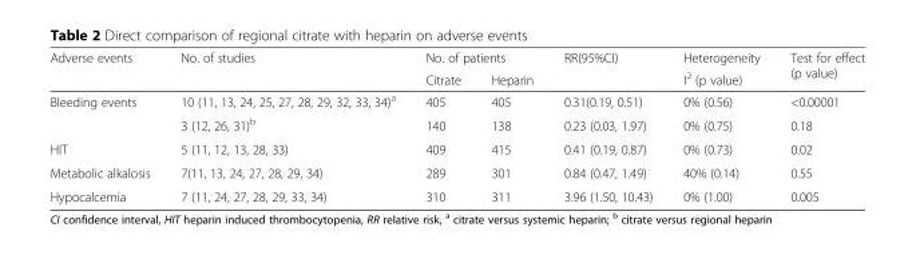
<table><thead><tr><td rowspan="2">Adverse events</td><td rowspan="2">No. of studies</td><td colspan="2">No. of patients</td><td rowspan="2">RR(95%CI)</td><td rowspan="2">Heterogeneity I<sup>2</sup> (p value)</td><td rowspan="2">Test for effect (p value)</td></tr><tr><td>Citrate</td><td>Heparin</td></tr></thead><tbody><tr><td rowspan="2">Bleeding events</td><td>10 (11, 13, 24, 25, 27, 28, 29, 32, 33, 34)<sup>a</sup></td><td>405</td><td>405</td><td>0.31(0.19, 0.51)</td><td>0% (0.56)</td><td>&lt;0.00001</td></tr><tr><td>3 (12, 26, 31)<sup>b</sup></td><td>140</td><td>138</td><td>0.23 (0.03, 1.97)</td><td>0% (0.75)</td><td>0.18</td></tr><tr><td>HIT</td><td>5 (11, 12, 13, 28, 33)</td><td>409</td><td>415</td><td>0.41 (0.19, 0.87)</td><td>0% (0.73)</td><td>0.02</td></tr><tr><td>Metabolic alkalosis</td><td>7(11, 13, 24, 27, 28, 29, 34)</td><td>289</td><td>301</td><td>0.84 (0.47, 1.49)</td><td>40% (0.14)</td><td>0.55</td></tr><tr><td>Hypocalcemia</td><td>7 (11, 24, 27, 28, 29, 33, 34)</td><td>310</td><td>311</td><td>3.96 (1.50, 10.43)</td><td>0% (1.00)</td><td>0.005</td></tr></tbody></table>